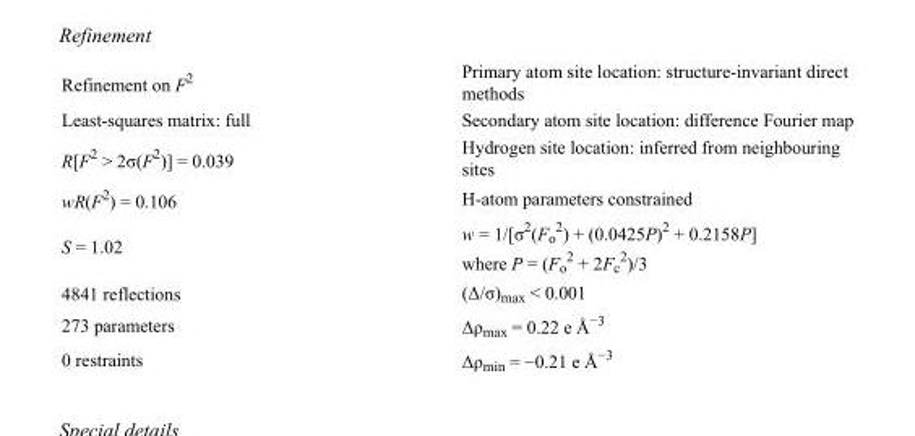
<table><tbody><tr><td>Refinement on F<sup>2</sup></td><td>Primary atom site location: structure-invariant direct methods</td></tr><tr><td>Least-squares matrix: full</td><td>Secondary atom site location: difference Fourier map</td></tr><tr><td>R[F<sup>2</sup> &gt; 2σ(F<sup>2</sup>)] = 0.039</td><td>Hydrogen site location: inferred from neighbouring sites</td></tr><tr><td>wR(F<sup>2</sup>) = 0.106</td><td>H-atom parameters constrained</td></tr><tr><td>S = 1.02</td><td>w = 1/[σ<sup>2</sup>(F<sub>o</sub> <sup>2</sup>) + (0.0425P)<sup>2</sup> + 0.2158P] where P = (F<sub>o</sub> <sup>2</sup> + 2F<sub>c</sub> <sup>2</sup>)/3</td></tr><tr><td>4841 reflections</td><td>(Δ/σ)<sub>max</sub> &lt; 0.001</td></tr><tr><td>273 parameters</td><td>Δρ<sub>max</sub> = 0.22 e Å<sup>−3</sup></td></tr><tr><td>0 restraints</td><td>Δρ<sub>min</sub> = −0.21 e Å<sup>−3</sup></td></tr></tbody></table>